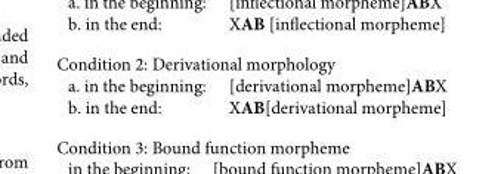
<table><tbody><tr><td colspan="2">Condition 2: Derivational morphology</td></tr><tr><td>a. in the beginning:</td><td>[derivational morpheme]ABX</td></tr><tr><td>b. in the end:</td><td>XAB[derivational morpheme]</td></tr></tbody></table>